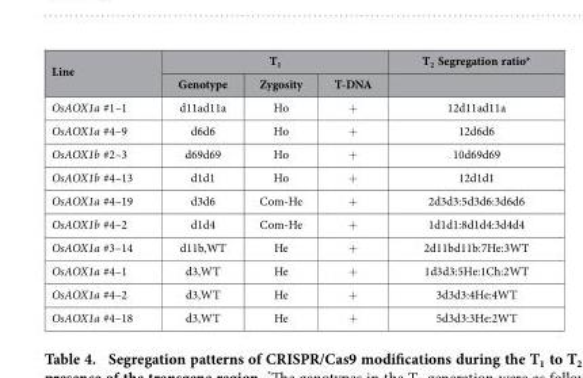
<table><thead><tr><td rowspan="2">Line</td><td colspan="3">T<sub>1</sub></td><td rowspan="2">T<sub>2</sub> Segregation ratio*</td></tr><tr><td>Genotype</td><td>Zygosity</td><td>T-DNA</td></tr></thead><tbody><tr><td>OsAOX1a #1–1</td><td>d11ad11a</td><td>Ho</td><td>+</td><td>12d11ad11a</td></tr><tr><td>OsAOX1a #4–9</td><td>d6d6</td><td>Ho</td><td>+</td><td>12d6d6</td></tr><tr><td>OsAOX1b #2–3</td><td>d69d69</td><td>Ho</td><td>+</td><td>10d69d69</td></tr><tr><td>OsAOX1b #4–13</td><td>d1d1</td><td>Ho</td><td>+</td><td>12d1d1</td></tr><tr><td>OsAOX1a #4–19</td><td>d3d6</td><td>Com-He</td><td>+</td><td>2d3d3:5d3d6:3d6d6</td></tr><tr><td>OsAOX1b #4–2</td><td>d1d4</td><td>Com-He</td><td>+</td><td>1d1d1:8d1d4:3d4d4</td></tr><tr><td>OsAOX1a #3–14</td><td>d11b,WT</td><td>He</td><td>+</td><td>2d11bd11b:7He:3WT</td></tr><tr><td>OsAOX1a #4–1</td><td>d3,WT</td><td>He</td><td>+</td><td>1d3d3:5He:1Ch:2WT</td></tr><tr><td>OsAOX1a #4–2</td><td>d3,WT</td><td>He</td><td>+</td><td>3d3d3:4He:4WT</td></tr><tr><td>OsAOX1a #4–18</td><td>d3,WT</td><td>He</td><td>+</td><td>5d3d3:3He:2WT</td></tr></tbody></table>